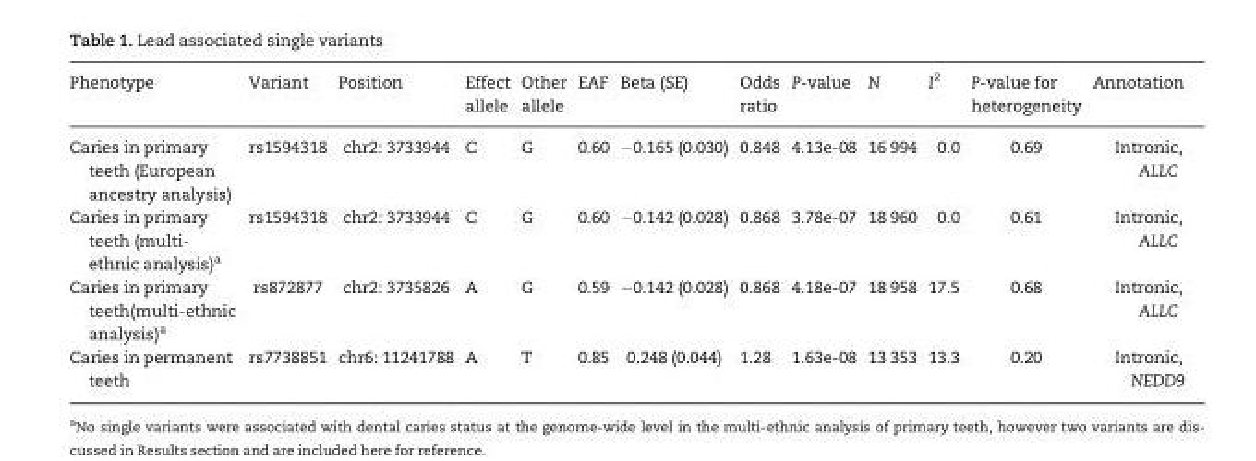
<table><thead><tr><td>Phenotype</td><td>Variant</td><td>Position</td><td>Effect allele</td><td>Other allele</td><td>EAF</td><td>Beta (SE)</td><td>Odds ratio</td><td>P-value</td><td>N</td><td>I<sup>2</sup></td><td>P-value for heterogeneity</td><td>Annotation</td></tr></thead><tbody><tr><td>Caries in primary teeth (European ancestry analysis)</td><td>rs1594318</td><td>chr2: 3733944</td><td>C</td><td>G</td><td>0.60</td><td>−0.165 (0.030)</td><td>0.848</td><td>4.13e-08</td><td>16 994</td><td>0.0</td><td>0.69</td><td>Intronic, ALLC</td></tr><tr><td>Caries in primary teeth (multi- ethnic analysis)<sup>a</sup></td><td>rs1594318</td><td>chr2: 3733944</td><td>C</td><td>G</td><td>0.60</td><td>−0.142 (0.028)</td><td>0.868</td><td>3.78e-07</td><td>18 960</td><td>0.0</td><td>0.61</td><td>Intronic, ALLC</td></tr><tr><td>Caries in primary teeth(multi-ethnic analysis)<sup>a</sup></td><td>rs872877</td><td>chr2: 3735826</td><td>A</td><td>G</td><td>0.59</td><td>−0.142 (0.028)</td><td>0.868</td><td>4.18e-07</td><td>18 958</td><td>17.5</td><td>0.68</td><td>Intronic, ALLC</td></tr><tr><td>Caries in permanent teeth</td><td>rs7738851</td><td>chr6: 11241788</td><td>A</td><td>T</td><td>0.85</td><td>0.248 (0.044)</td><td>1.28</td><td>1.63e-08</td><td>13 353</td><td>13.3</td><td>0.20</td><td>Intronic, NEDD9</td></tr></tbody></table>